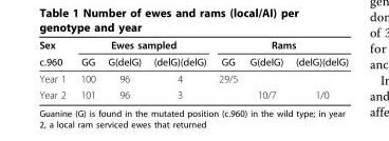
<table><thead><tr><td rowspan="2">Sex c.960</td><td colspan="3">Ewes sampled</td><td colspan="3">Rams</td></tr><tr><td>GG</td><td>G(delG)</td><td>(delG)(delG)</td><td>GG</td><td>G(delG)</td><td>(delG)(delG)</td></tr></thead><tbody><tr><td>Year 1</td><td>100</td><td>96</td><td>4</td><td>29/5</td><td></td><td></td></tr><tr><td>Year 2</td><td>101</td><td>96</td><td>3</td><td></td><td>10/7</td><td>1/0</td></tr></tbody></table>